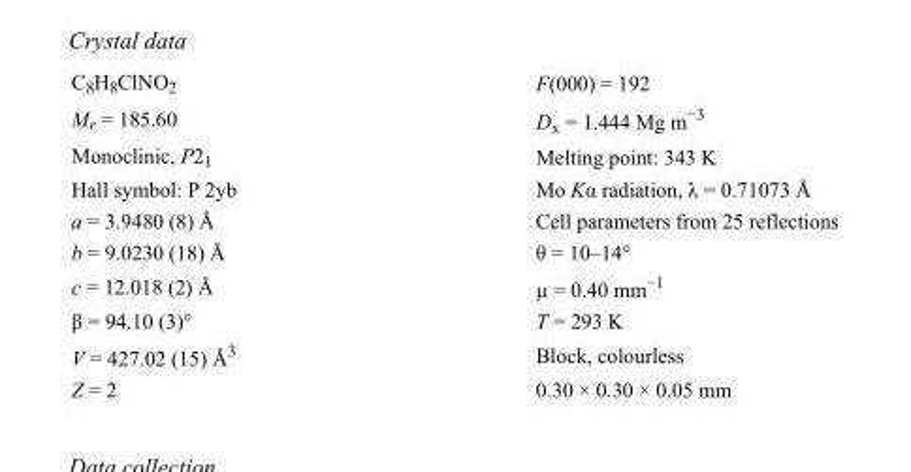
<table><tbody><tr><td>C<sub>8</sub>H<sub>8</sub>ClNO<sub>2</sub></td><td>F(000) = 192</td></tr><tr><td>M<sub>r</sub> = 185.60</td><td>D<sub>x</sub> = 1.444 Mg m<sup>−3</sup></td></tr><tr><td>Monoclinic, P2<sub>1</sub></td><td>Melting point: 343 K</td></tr><tr><td>Hall symbol: P 2yb</td><td>Mo Kα radiation, λ = 0.71073 Å</td></tr><tr><td>a = 3.9480 (8) Å</td><td>Cell parameters from 25 reflections</td></tr><tr><td>b = 9.0230 (18) Å</td><td>θ = 10–14°</td></tr><tr><td>c = 12.018 (2) Å</td><td>µ = 0.40 mm<sup>−1</sup></td></tr><tr><td>β = 94.10 (3)°</td><td>T = 293 K</td></tr><tr><td>V = 427.02 (15) Å<sup>3</sup></td><td>Block, colourless</td></tr><tr><td>Z = 2</td><td>0.30 × 0.30 × 0.05 mm</td></tr></tbody></table>